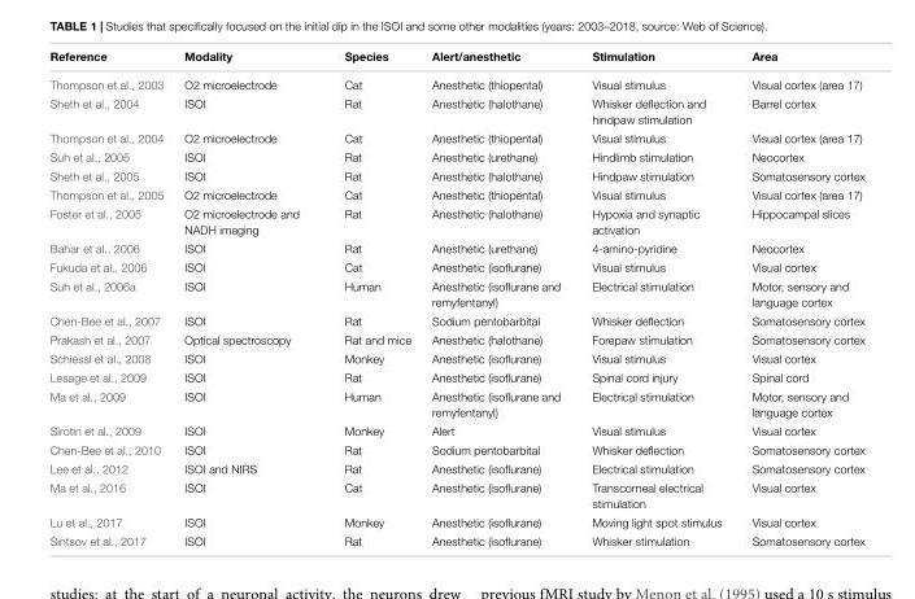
<table><thead><tr><td>Reference</td><td>Modality</td><td>Species</td><td>Alert/anesthetic</td><td>Stimulation</td><td>Area</td></tr></thead><tbody><tr><td>Thompson et al., 2003</td><td>O2 microelectrode</td><td>Cat</td><td>Anesthetic (thiopental)</td><td>Visual stimulus</td><td>Visual cortex (area 17)</td></tr><tr><td>Sheth et al., 2004</td><td>ISOI</td><td>Rat</td><td>Anesthetic (halothane)</td><td>Whisker deflection and hindpaw stimulation</td><td>Barrel cortex</td></tr><tr><td>Thompson et al., 2004</td><td>O2 microelectrode</td><td>Cat</td><td>Anesthetic (thiopental)</td><td>Visual stimulus</td><td>Visual cortex (area 17)</td></tr><tr><td>Suh et al., 2005</td><td>ISOI</td><td>Rat</td><td>Anesthetic (urethane)</td><td>Hindlimb stimulation</td><td>Neocortex</td></tr><tr><td>Sheth et al., 2005</td><td>ISOI</td><td>Rat</td><td>Anesthetic (halothane)</td><td>Hindpaw stimulation</td><td>Somatosensory cortex</td></tr><tr><td>Thompson et al., 2005</td><td>O2 microelectrode</td><td>Cat</td><td>Anesthetic (thiopental)</td><td>Visual stimulus</td><td>Visual cortex (area 17)</td></tr><tr><td>Foster et al., 2005</td><td>O2 microelectrode and NADH imaging</td><td>Rat</td><td>Anesthetic (halothane)</td><td>Hypoxia and synaptic activation</td><td>Hippocampal slices</td></tr><tr><td>Bahar et al., 2006</td><td>ISOI</td><td>Rat</td><td>Anesthetic (urethane)</td><td>4-amino-pyridine</td><td>Neocortex</td></tr><tr><td>Fukuda et al., 2006</td><td>ISOI</td><td>Cat</td><td>Anesthetic (isoflurane)</td><td>Visual stimulus</td><td>Visual cortex</td></tr><tr><td>Suh et al., 2006a</td><td>ISOI</td><td>Human</td><td>Anesthetic (isoflurane and remyfentanyl)</td><td>Electrical stimulation</td><td>Motor, sensory and language cortex</td></tr><tr><td>Chen-Bee et al., 2007</td><td>ISOI</td><td>Rat</td><td>Sodium pentobarbital</td><td>Whisker deflection</td><td>Somatosensory cortex</td></tr><tr><td>Prakash et al., 2007</td><td>Optical spectroscopy</td><td>Rat and mice</td><td>Anesthetic (halothane)</td><td>Forepaw stimulation</td><td>Somatosensory cortex</td></tr><tr><td>Schiessl et al., 2008</td><td>ISOI</td><td>Monkey</td><td>Anesthetic (isoflurane)</td><td>Visual stimulus</td><td>Visual cortex</td></tr><tr><td>Lesage et al., 2009</td><td>ISOI</td><td>Rat</td><td>Anesthetic (isoflurane)</td><td>Spinal cord injury</td><td>Spinal cord</td></tr><tr><td>Ma et al., 2009</td><td>ISOI</td><td>Human</td><td>Anesthetic (isoflurane and remyfentanyl)</td><td>Electrical stimulation</td><td>Motor, sensory and language cortex</td></tr><tr><td>Sirotin et al., 2009</td><td>ISOI</td><td>Monkey</td><td>Alert</td><td>Visual stimulus</td><td>Visual cortex</td></tr><tr><td>Chen-Bee et al., 2010</td><td>ISOI</td><td>Rat</td><td>Sodium pentobarbital</td><td>Whisker deflection</td><td>Somatosensory cortex</td></tr><tr><td>Lee et al., 2012</td><td>ISOI and NIRS</td><td>Rat</td><td>Anesthetic (isoflurane)</td><td>Electrical stimulation</td><td>Somatosensory cortex</td></tr><tr><td>Ma et al., 2016</td><td>ISOI</td><td>Cat</td><td>Anesthetic (isoflurane)</td><td>Transcorneal electrical stimulation</td><td>Visual cortex</td></tr><tr><td>Lu et al., 2017</td><td>ISOI</td><td>Monkey</td><td>Anesthetic (isoflurane)</td><td>Moving light spot stimulus</td><td>Visual cortex</td></tr><tr><td>Sintsov et al., 2017</td><td>ISOI</td><td>Rat</td><td>Anesthetic (isoflurane)</td><td>Whisker stimulation</td><td>Somatosensory cortex</td></tr></tbody></table>